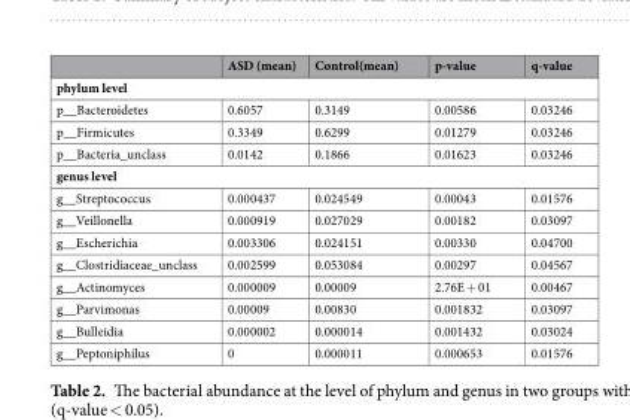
<table><thead><tr><td></td><td>ASD (mean)</td><td>Control(mean)</td><td>p-value</td><td>q-value</td></tr></thead><tbody><tr><td colspan="5">phylum level</td></tr><tr><td>p__Bacteroidetes</td><td>0.6057</td><td>0.3149</td><td>0.00586</td><td>0.03246</td></tr><tr><td>p__Firmicutes</td><td>0.3349</td><td>0.6299</td><td>0.01279</td><td>0.03246</td></tr><tr><td>p__Bacteria_unclass</td><td>0.0142</td><td>0.1866</td><td>0.01623</td><td>0.03246</td></tr><tr><td colspan="5">genus level</td></tr><tr><td>g__Streptococcus</td><td>0.000437</td><td>0.024549</td><td>0.00043</td><td>0.01576</td></tr><tr><td>g__Veillonella</td><td>0.000919</td><td>0.027029</td><td>0.00182</td><td>0.03097</td></tr><tr><td>g__Escherichia</td><td>0.003306</td><td>0.024151</td><td>0.00330</td><td>0.04700</td></tr><tr><td>g__Clostridiaceae_unclass</td><td>0.002599</td><td>0.053084</td><td>0.00297</td><td>0.04567</td></tr><tr><td>g__Actinomyces</td><td>0.000009</td><td>0.00009</td><td>2.76E + 01</td><td>0.00467</td></tr><tr><td>g__Parvimonas</td><td>0.00009</td><td>0.00830</td><td>0.001832</td><td>0.03097</td></tr><tr><td>g__Bulleidia</td><td>0.000002</td><td>0.000014</td><td>0.001432</td><td>0.03024</td></tr><tr><td>g__Peptoniphilus</td><td>0</td><td>0.000011</td><td>0.000653</td><td>0.01576</td></tr></tbody></table>